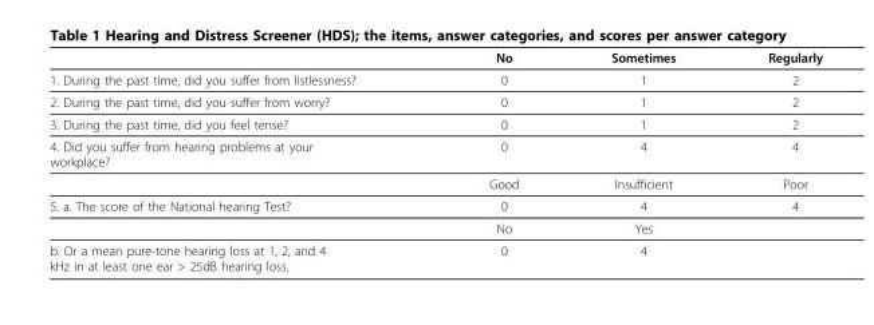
<table><thead><tr><td></td><td>No</td><td>Sometimes</td><td>Regularly</td></tr></thead><tbody><tr><td>1. During the past time, did you suffer from listlessness?</td><td>0</td><td>1</td><td>2</td></tr><tr><td>2. During the past time, did you suffer from worry?</td><td>0</td><td>1</td><td>2</td></tr><tr><td>3. During the past time, did you feel tense?</td><td>0</td><td>1</td><td>2</td></tr><tr><td rowspan="2">4. Did you suffer from hearing problems at your workplace?</td><td>0</td><td>4</td><td>4</td></tr><tr><td>Good</td><td>Insufficient</td><td>Poor</td></tr><tr><td rowspan="2">5. a. The score of the National hearing Test?</td><td>0</td><td>4</td><td>4</td></tr><tr><td>No</td><td>Yes</td><td></td></tr><tr><td>b. Or a mean pure-tone hearing loss at 1, 2, and 4 kHz in at least one ear &gt; 25dB hearing loss.</td><td>0</td><td>4</td><td></td></tr></tbody></table>